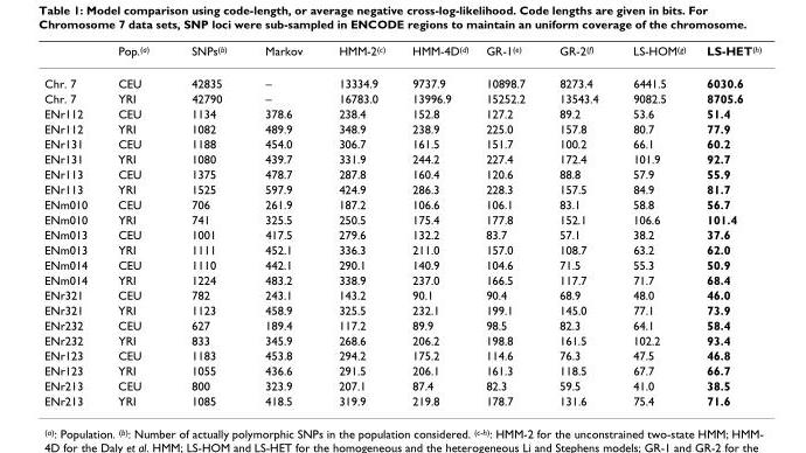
<table><thead><tr><td></td><td>Pop.(a)</td><td>SNPs(b)</td><td>Markov</td><td>HMM-2(c)</td><td>HMM-4D(d)</td><td>GR-1(e)</td><td>GR-2(f)</td><td>LS-HOM(g)</td><td>LS-HET(h)</td></tr></thead><tbody><tr><td>Chr. 7</td><td>CEU</td><td>42835</td><td>–</td><td>13334.9</td><td>9737.9</td><td>10898.7</td><td>8273.4</td><td>6441.5</td><td>6030.6</td></tr><tr><td>Chr. 7</td><td>YRI</td><td>42790</td><td>–</td><td>16783.0</td><td>13996.9</td><td>15252.2</td><td>13543.4</td><td>9082.5</td><td>8705.6</td></tr><tr><td>ENr112</td><td>CEU</td><td>1134</td><td>378.6</td><td>238.4</td><td>152.8</td><td>127.2</td><td>89.2</td><td>53.6</td><td>51.4</td></tr><tr><td>ENr112</td><td>YRI</td><td>1082</td><td>489.9</td><td>348.9</td><td>238.9</td><td>225.0</td><td>157.8</td><td>80.7</td><td>77.9</td></tr><tr><td>ENr131</td><td>CEU</td><td>1188</td><td>454.0</td><td>306.7</td><td>161.5</td><td>151.7</td><td>100.2</td><td>66.1</td><td>60.2</td></tr><tr><td>ENr131</td><td>YRI</td><td>1080</td><td>439.7</td><td>331.9</td><td>244.2</td><td>227.4</td><td>172.4</td><td>101.9</td><td>92.7</td></tr><tr><td>ENr113</td><td>CEU</td><td>1375</td><td>478.7</td><td>287.8</td><td>160.4</td><td>120.6</td><td>88.8</td><td>57.9</td><td>55.9</td></tr><tr><td>ENr113</td><td>YRI</td><td>1525</td><td>597.9</td><td>424.9</td><td>286.3</td><td>228.3</td><td>157.5</td><td>84.9</td><td>81.7</td></tr><tr><td>ENm010</td><td>CEU</td><td>706</td><td>261.9</td><td>187.2</td><td>106.6</td><td>106.1</td><td>83.1</td><td>58.8</td><td>56.7</td></tr><tr><td>ENm010</td><td>YRI</td><td>741</td><td>325.5</td><td>250.5</td><td>175.4</td><td>177.8</td><td>152.1</td><td>106.6</td><td>101.4</td></tr><tr><td>ENm013</td><td>CEU</td><td>1001</td><td>417.5</td><td>279.6</td><td>132.2</td><td>83.7</td><td>57.1</td><td>38.2</td><td>37.6</td></tr><tr><td>ENm013</td><td>YRI</td><td>1111</td><td>452.1</td><td>336.3</td><td>211.0</td><td>157.0</td><td>108.7</td><td>63.2</td><td>62.0</td></tr><tr><td>ENm014</td><td>CEU</td><td>1110</td><td>442.1</td><td>290.1</td><td>140.9</td><td>104.6</td><td>71.5</td><td>55.3</td><td>50.9</td></tr><tr><td>ENm014</td><td>YRI</td><td>1224</td><td>483.2</td><td>338.9</td><td>237.0</td><td>166.5</td><td>117.7</td><td>71.7</td><td>68.4</td></tr><tr><td>ENr321</td><td>CEU</td><td>782</td><td>243.1</td><td>143.2</td><td>90.1</td><td>90.4</td><td>68.9</td><td>48.0</td><td>46.0</td></tr><tr><td>ENr321</td><td>YRI</td><td>1123</td><td>458.9</td><td>325.5</td><td>232.1</td><td>199.1</td><td>145.0</td><td>77.1</td><td>73.9</td></tr><tr><td>ENr232</td><td>CEU</td><td>627</td><td>189.4</td><td>117.2</td><td>89.9</td><td>98.5</td><td>82.3</td><td>64.1</td><td>58.4</td></tr><tr><td>ENr232</td><td>YRI</td><td>833</td><td>345.9</td><td>268.6</td><td>206.2</td><td>198.8</td><td>161.5</td><td>102.2</td><td>93.4</td></tr><tr><td>ENr123</td><td>CEU</td><td>1183</td><td>453.8</td><td>294.2</td><td>175.2</td><td>114.6</td><td>76.3</td><td>47.5</td><td>46.8</td></tr><tr><td>ENr123</td><td>YRI</td><td>1055</td><td>436.6</td><td>291.5</td><td>206.1</td><td>161.3</td><td>118.5</td><td>67.7</td><td>66.7</td></tr><tr><td>ENr213</td><td>CEU</td><td>800</td><td>323.9</td><td>207.1</td><td>87.4</td><td>82.3</td><td>59.5</td><td>41.0</td><td>38.5</td></tr><tr><td>ENr213</td><td>YRI</td><td>1085</td><td>418.5</td><td>319.9</td><td>219.8</td><td>178.7</td><td>131.6</td><td>75.4</td><td>71.6</td></tr></tbody></table>